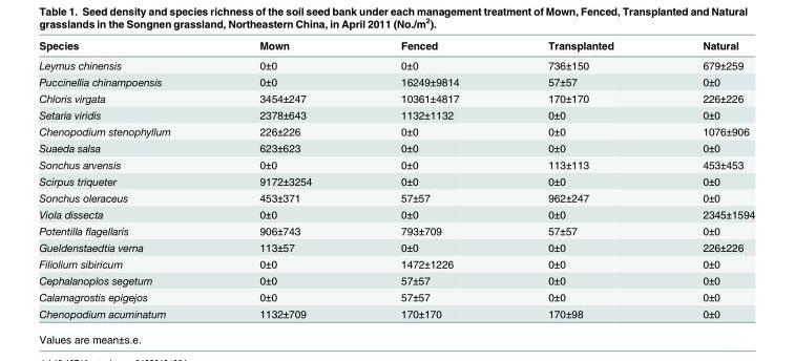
<table><thead><tr><td>Species</td><td>Mown</td><td>Fenced</td><td>Transplanted</td><td>Natural</td></tr></thead><tbody><tr><td>Leymus chinensis</td><td>0±0</td><td>0±0</td><td>736±150</td><td>679±259</td></tr><tr><td>Puccinellia chinampoensis</td><td>0±0</td><td>16249±9814</td><td>57±57</td><td>0±0</td></tr><tr><td>Chloris virgata</td><td>3454±247</td><td>10361±4817</td><td>170±170</td><td>226±226</td></tr><tr><td>Setaria viridis</td><td>2378±643</td><td>1132±1132</td><td>0±0</td><td>0±0</td></tr><tr><td>Chenopodium stenophyllum</td><td>226±226</td><td>0±0</td><td>0±0</td><td>1076±906</td></tr><tr><td>Suaeda salsa</td><td>623±623</td><td>0±0</td><td>0±0</td><td>0±0</td></tr><tr><td>Sonchus arvensis</td><td>0±0</td><td>0±0</td><td>113±113</td><td>453±453</td></tr><tr><td>Scirpus triqueter</td><td>9172±3254</td><td>0±0</td><td>0±0</td><td>0±0</td></tr><tr><td>Sonchus oleraceus</td><td>453±371</td><td>57±57</td><td>962±247</td><td>0±0</td></tr><tr><td>Viola dissecta</td><td>0±0</td><td>0±0</td><td>0±0</td><td>2345±1594</td></tr><tr><td>Potentilla flagellaris</td><td>906±743</td><td>793±709</td><td>57±57</td><td>0±0</td></tr><tr><td>Gueldenstaedtia verna</td><td>113±57</td><td>0±0</td><td>0±0</td><td>226±226</td></tr><tr><td>Filiolium sibiricum</td><td>0±0</td><td>1472±1226</td><td>0±0</td><td>0±0</td></tr><tr><td>Cephalanoplos segetum</td><td>0±0</td><td>57±57</td><td>0±0</td><td>0±0</td></tr><tr><td>Calamagrostis epigejos</td><td>0±0</td><td>57±57</td><td>0±0</td><td>0±0</td></tr><tr><td>Chenopodium acuminatum</td><td>1132±709</td><td>170±170</td><td>170±98</td><td>0±0</td></tr></tbody></table>